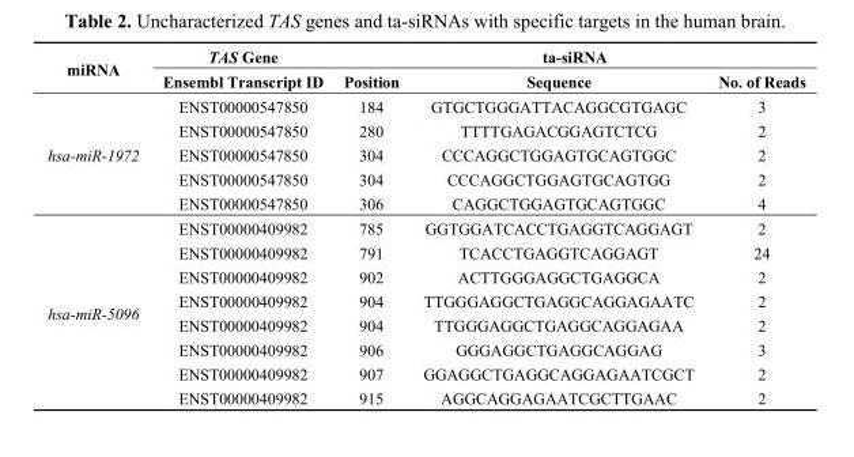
<table><thead><tr><td rowspan="2">miRNA</td><td rowspan="2">TAS Gene Ensembl Transcript ID</td><td colspan="3">ta-siRNA</td></tr><tr><td>Position</td><td>Sequence</td><td>No. of Reads</td></tr></thead><tbody><tr><td rowspan="5">hsa-miR-1972</td><td>ENST00000547850</td><td>184</td><td>GTGCTGGGATTACAGGCGTGAGC</td><td>3</td></tr><tr><td>ENST00000547850</td><td>280</td><td>TTTTGAGACGGAGTCTCG</td><td>2</td></tr><tr><td>ENST00000547850</td><td>304</td><td>CCCAGGCTGGAGTGCAGTGGC</td><td>2</td></tr><tr><td>ENST00000547850</td><td>304</td><td>CCCAGGCTGGAGTGCAGTGG</td><td>2</td></tr><tr><td>ENST00000547850</td><td>306</td><td>CAGGCTGGAGTGCAGTGGC</td><td>4</td></tr><tr><td rowspan="8">hsa-miR-5096</td><td>ENST00000409982</td><td>785</td><td>GGTGGATCACCTGAGGTCAGGAGT</td><td>2</td></tr><tr><td>ENST00000409982</td><td>791</td><td>TCACCTGAGGTCAGGAGT</td><td>24</td></tr><tr><td>ENST00000409982</td><td>902</td><td>ACTTGGGAGGCTGAGGCA</td><td>2</td></tr><tr><td>ENST00000409982</td><td>904</td><td>TTGGGAGGCTGAGGCAGGAGAATC</td><td>2</td></tr><tr><td>ENST00000409982</td><td>904</td><td>TTGGGAGGCTGAGGCAGGAGAA</td><td>2</td></tr><tr><td>ENST00000409982</td><td>906</td><td>GGGAGGCTGAGGCAGGAG</td><td>3</td></tr><tr><td>ENST00000409982</td><td>907</td><td>GGAGGCTGAGGCAGGAGAATCGCT</td><td>2</td></tr><tr><td>ENST00000409982</td><td>915</td><td>AGGCAGGAGAATCGCTTGAAC</td><td>2</td></tr></tbody></table>